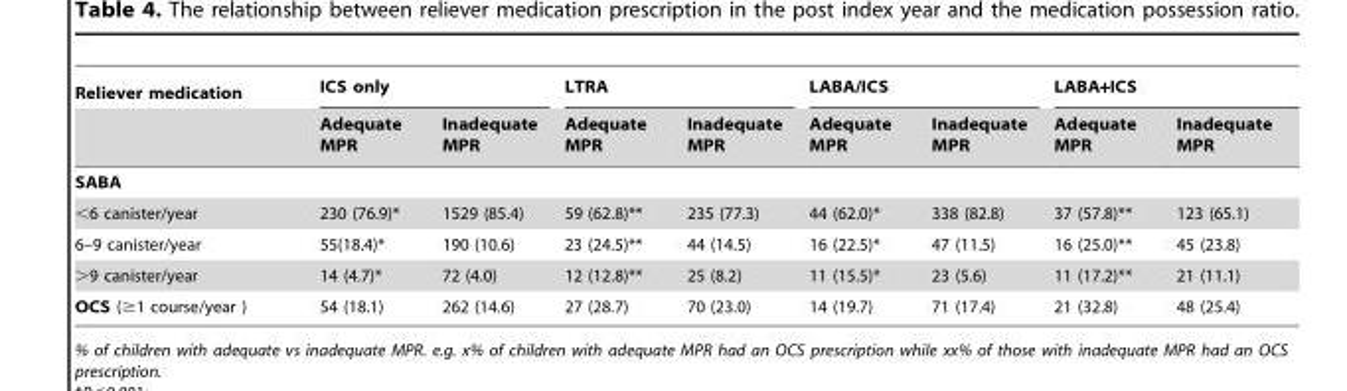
<table><thead><tr><td rowspan="2">Reliever medication</td><td colspan="2">ICS only</td><td colspan="2">LTRA</td><td colspan="2">LABA/ICS</td><td colspan="2">LABA+ICS</td></tr><tr><td>Adequate MPR</td><td>Inadequate MPR</td><td>Adequate MPR</td><td>Inadequate MPR</td><td>Adequate MPR</td><td>Inadequate MPR</td><td>Adequate MPR</td><td>Inadequate MPR</td></tr></thead><tbody><tr><td colspan="9">SABA</td></tr><tr><td>&lt;6 canister/year</td><td>230 (76.9)*</td><td>1529 (85.4)</td><td>59 (62.8)**</td><td>235 (77.3)</td><td>44 (62.0)*</td><td>338 (82.8)</td><td>37 (57.8)**</td><td>123 (65.1)</td></tr><tr><td>6–9 canister/year</td><td>55(18.4)*</td><td>190 (10.6)</td><td>23 (24.5)**</td><td>44 (14.5)</td><td>16 (22.5)*</td><td>47 (11.5)</td><td>16 (25.0)**</td><td>45 (23.8)</td></tr><tr><td>&gt;9 canister/year</td><td>14 (4.7)*</td><td>72 (4.0)</td><td>12 (12.8)**</td><td>25 (8.2)</td><td>11 (15.5)*</td><td>23 (5.6)</td><td>11 (17.2)**</td><td>21 (11.1)</td></tr><tr><td>OCS (≥1 course/year )</td><td>54 (18.1)</td><td>262 (14.6)</td><td>27 (28.7)</td><td>70 (23.0)</td><td>14 (19.7)</td><td>71 (17.4)</td><td>21 (32.8)</td><td>48 (25.4)</td></tr></tbody></table>